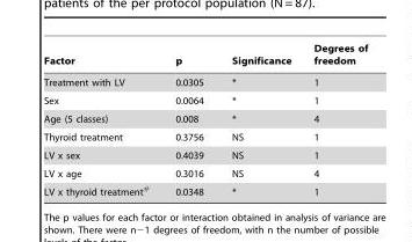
<table><thead><tr><td>Factor</td><td>p</td><td>Significance</td><td>Degrees of freedom</td></tr></thead><tbody><tr><td>Treatment with LV</td><td>0.0305</td><td>*</td><td>1</td></tr><tr><td>Sex</td><td>0.0064</td><td>*</td><td>1</td></tr><tr><td>Age (5 classes)</td><td>0.008</td><td>*</td><td>4</td></tr><tr><td>Thyroid treatment</td><td>0.3756</td><td>NS</td><td>1</td></tr><tr><td>LV x sex</td><td>0.4039</td><td>NS</td><td>1</td></tr><tr><td>LV x age</td><td>0.3016</td><td>NS</td><td>4</td></tr><tr><td>LV x thyroid treatment#</td><td>0.0348</td><td>*</td><td>1</td></tr></tbody></table>